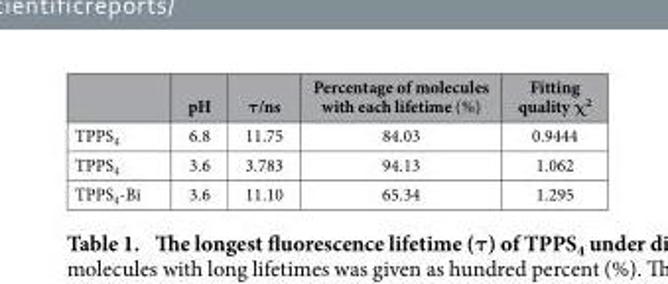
<table><thead><tr><td></td><td>pH</td><td>τ /ns</td><td>Percentage of molecules with each lifetime (%)</td><td>Fitting quality χ <sup>2</sup></td></tr></thead><tbody><tr><td>TPPS<sub>4</sub></td><td>6.8</td><td>11.75</td><td>84.03</td><td>0.9444</td></tr><tr><td>TPPS<sub>4</sub></td><td>3.6</td><td>3.783</td><td>94.13</td><td>1.062</td></tr><tr><td>TPPS<sub>4</sub>-Bi</td><td>3.6</td><td>11.10</td><td>65.34</td><td>1.295</td></tr></tbody></table>